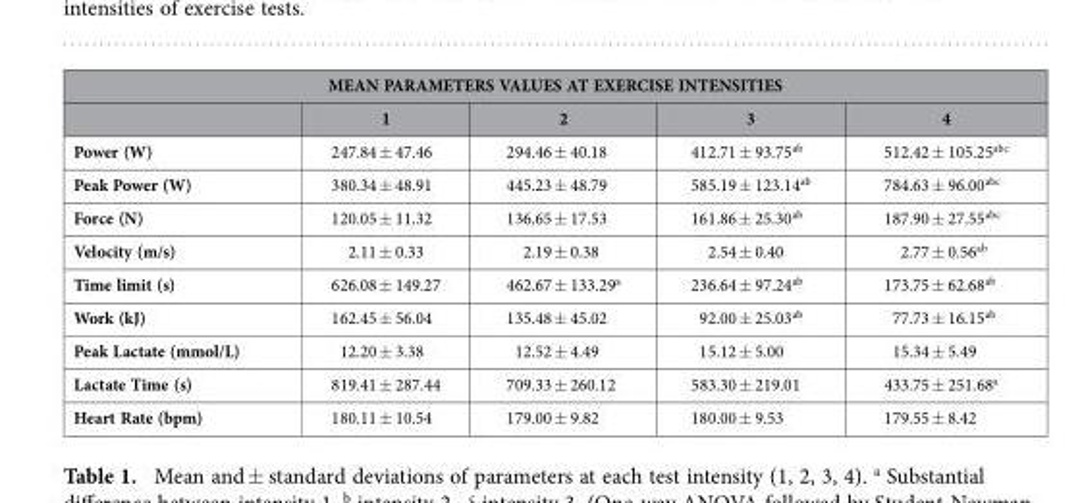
<table><thead><tr><td colspan="5">MEAN PARAMETERS VALUES AT EXERCISE INTENSITIES</td></tr><tr><td></td><td>1</td><td>2</td><td>3</td><td>4</td></tr></thead><tbody><tr><td>Power (W)</td><td>247.84 ± 47.46</td><td>294.46 ± 40.18</td><td>412.71 ± 93.75<sup>ab</sup></td><td>512.42 ± 105.25abc</td></tr><tr><td>Peak Power (W)</td><td>380.34 ± 48.91</td><td>445.23 ± 48.79</td><td>585.19 ± 123.14<sup>ab</sup></td><td>784.63 ± 96.00abc</td></tr><tr><td>Force (N)</td><td>120.05 ± 11.32</td><td>136.65 ± 17.53</td><td>161.86 ± 25.30<sup>ab</sup></td><td>187.90 ± 27.55abc</td></tr><tr><td>Velocity (m/s)</td><td>2.11 ± 0.33</td><td>2.19 ± 0.38</td><td>2.54 ± 0.40</td><td>2.77 ± 0.56<sup>ab</sup></td></tr><tr><td>Time limit (s)</td><td>626.08 ± 149.27</td><td>462.67 ± 133.29<sup>a</sup></td><td>236.64 ± 97.24<sup>ab</sup></td><td>173.75 ± 62.68<sup>ab</sup></td></tr><tr><td>Work (kJ)</td><td>162.45 ± 56.04</td><td>135.48 ± 45.02</td><td>92.00 ± 25.03<sup>ab</sup></td><td>77.73 ± 16.15<sup>ab</sup></td></tr><tr><td>Peak Lactate (mmol/L)</td><td>12.20 ± 3.38</td><td>12.52 ± 4.49</td><td>15.12 ± 5.00</td><td>15.34 ± 5.49</td></tr><tr><td>Lactate Time (s)</td><td>819.41 ± 287.44</td><td>709.33 ± 260.12</td><td>583.30 ± 219.01</td><td>433.75 ± 251.68<sup>a</sup></td></tr><tr><td>Heart Rate (bpm)</td><td>180.11 ± 10.54</td><td>179.00 ± 9.82</td><td>180.00 ± 9.53</td><td>179.55 ± 8.42</td></tr></tbody></table>